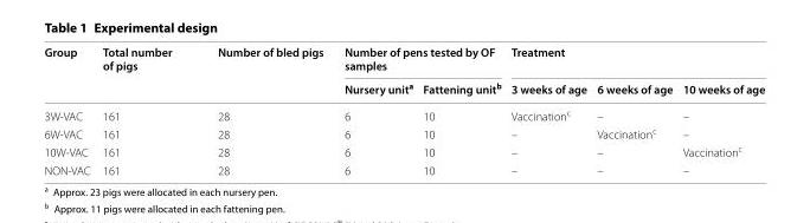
<table><thead><tr><td rowspan="2">Group</td><td rowspan="2">Total number of pigs</td><td rowspan="2">Number of bled pigs</td><td colspan="2">Number of pens tested by OF samples</td><td colspan="3">Treatment</td></tr><tr><td>Nursery unit<sup>a</sup></td><td>Fattening unit<sup>b</sup></td><td>3 weeks of age</td><td>6 weeks of age</td><td>10 weeks of age</td></tr></thead><tbody><tr><td>3W‑VAC</td><td>161</td><td>28</td><td>6</td><td>10</td><td>Vaccination<sup>c</sup></td><td>–</td><td>–</td></tr><tr><td>6W‑VAC</td><td>161</td><td>28</td><td>6</td><td>10</td><td>–</td><td>Vaccination<sup>c</sup></td><td>–</td></tr><tr><td>10W‑VAC</td><td>161</td><td>28</td><td>6</td><td>10</td><td>–</td><td>–</td><td>Vaccination<sup>c</sup></td></tr><tr><td>NON‑VAC</td><td>161</td><td>28</td><td>6</td><td>10</td><td>–</td><td>–</td><td>–</td></tr></tbody></table>